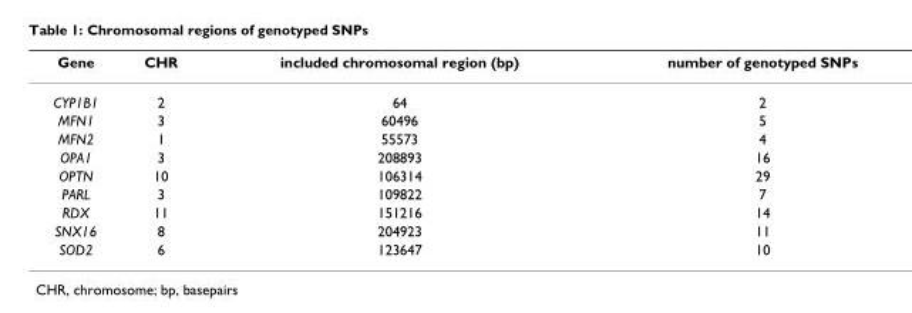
<table><thead><tr><td>Gene</td><td>CHR</td><td>included chromosomal region (bp)</td><td>number of genotyped SNPs</td></tr></thead><tbody><tr><td>CYP1B1</td><td>2</td><td>64</td><td>2</td></tr><tr><td>MFN1</td><td>3</td><td>60496</td><td>5</td></tr><tr><td>MFN2</td><td>1</td><td>55573</td><td>4</td></tr><tr><td>OPA1</td><td>3</td><td>208893</td><td>16</td></tr><tr><td>OPTN</td><td>10</td><td>106314</td><td>29</td></tr><tr><td>PARL</td><td>3</td><td>109822</td><td>7</td></tr><tr><td>RDX</td><td>11</td><td>151216</td><td>14</td></tr><tr><td>SNX16</td><td>8</td><td>204923</td><td>11</td></tr><tr><td>SOD2</td><td>6</td><td>123647</td><td>10</td></tr></tbody></table>